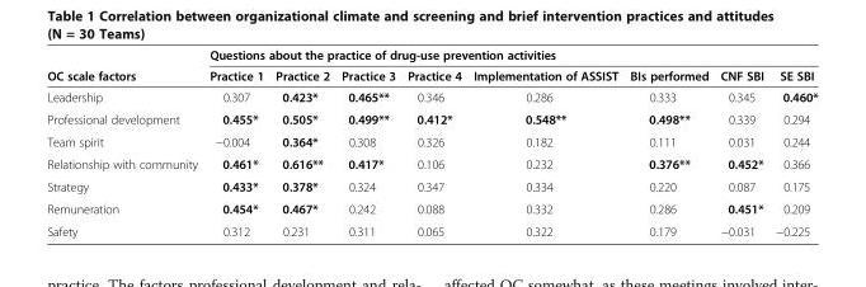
<table><thead><tr><td rowspan="2">OC scale factors</td><td colspan="8">Questions about the practice of drug-use prevention activities</td></tr><tr><td>Practice 1</td><td>Practice 2</td><td>Practice 3</td><td>Practice 4</td><td>Implementation of ASSIST</td><td>BIs performed</td><td>CNF SBI</td><td>SE SBI</td></tr></thead><tbody><tr><td>Leadership</td><td>0.307</td><td>0.423*</td><td>0.465**</td><td>0.346</td><td>0.286</td><td>0.333</td><td>0.345</td><td>0.460*</td></tr><tr><td>Professional development</td><td>0.455*</td><td>0.505*</td><td>0.499**</td><td>0.412*</td><td>0.548**</td><td>0.498**</td><td>0.339</td><td>0.294</td></tr><tr><td>Team spirit</td><td>−0.004</td><td>0.364*</td><td>0.308</td><td>0.326</td><td>0.182</td><td>0.111</td><td>0.031</td><td>0.244</td></tr><tr><td>Relationship with community</td><td>0.461*</td><td>0.616**</td><td>0.417*</td><td>0.106</td><td>0.232</td><td>0.376**</td><td>0.452*</td><td>0.366</td></tr><tr><td>Strategy</td><td>0.433*</td><td>0.378*</td><td>0.324</td><td>0.347</td><td>0.334</td><td>0.220</td><td>0.087</td><td>0.175</td></tr><tr><td>Remuneration</td><td>0.454*</td><td>0.467*</td><td>0.242</td><td>0.088</td><td>0.332</td><td>0.286</td><td>0.451*</td><td>0.209</td></tr><tr><td>Safety</td><td>0.312</td><td>0.231</td><td>0.311</td><td>0.065</td><td>0.322</td><td>0.179</td><td>−0.031</td><td>−0.225</td></tr></tbody></table>